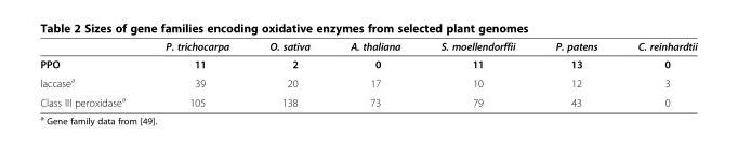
<table><thead><tr><td></td><td>P. trichocarpa</td><td>O. sativa</td><td>A. thaliana</td><td>S. moellendorffii</td><td>P. patens</td><td>C. reinhardtii</td></tr></thead><tbody><tr><td>PPO</td><td>11</td><td>2</td><td>0</td><td>11</td><td>13</td><td>0</td></tr><tr><td>laccase<sup>a</sup></td><td>39</td><td>20</td><td>17</td><td>10</td><td>12</td><td>3</td></tr><tr><td>Class III peroxidase<sup>a</sup></td><td>105</td><td>138</td><td>73</td><td>79</td><td>43</td><td>0</td></tr></tbody></table>